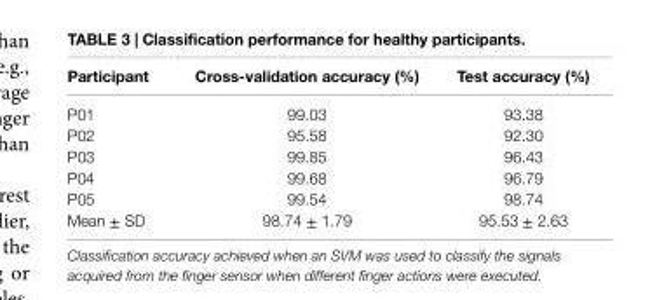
<table><thead><tr><td>Participant</td><td>cross-validation accuracy (%)</td><td>Test accuracy (%)</td></tr></thead><tbody><tr><td>P01</td><td>99.03</td><td>93.38</td></tr><tr><td>P02</td><td>95.58</td><td>92.30</td></tr><tr><td>P03</td><td>99.85</td><td>96.43</td></tr><tr><td>P04</td><td>99.68</td><td>96.79</td></tr><tr><td>P05</td><td>99.54</td><td>98.74</td></tr><tr><td>Mean ± SD</td><td>98.74 ± 1.79</td><td>95.53 ± 2.63</td></tr></tbody></table>